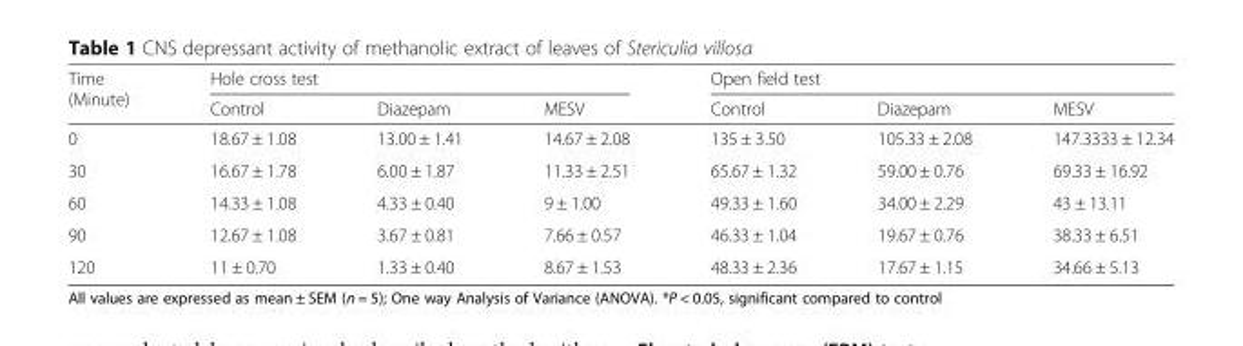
<table><thead><tr><td rowspan="2">Time (Minute)</td><td colspan="3">Hole cross test</td><td colspan="3">Open field test</td></tr><tr><td>Control</td><td>Diazepam</td><td>MESV</td><td>Control</td><td>Diazepam</td><td>MESV</td></tr></thead><tbody><tr><td>0</td><td>18.67 ± 1.08</td><td>13.00 ± 1.41</td><td>14.67 ± 2.08</td><td>135 ± 3.50</td><td>105.33 ± 2.08</td><td>147.3333 ± 12.34</td></tr><tr><td>30</td><td>16.67 ± 1.78</td><td>6.00 ± 1.87</td><td>11.33 ± 2.51</td><td>65.67 ± 1.32</td><td>59.00 ± 0.76</td><td>69.33 ± 16.92</td></tr><tr><td>60</td><td>14.33 ± 1.08</td><td>4.33 ± 0.40</td><td>9 ± 1.00</td><td>49.33 ± 1.60</td><td>34.00 ± 2.29</td><td>43 ± 13.11</td></tr><tr><td>90</td><td>12.67 ± 1.08</td><td>3.67 ± 0.81</td><td>7.66 ± 0.57</td><td>46.33 ± 1.04</td><td>19.67 ± 0.76</td><td>38.33 ± 6.51</td></tr><tr><td>120</td><td>11 ± 0.70</td><td>1.33 ± 0.40</td><td>8.67 ± 1.53</td><td>48.33 ± 2.36</td><td>17.67 ± 1.15</td><td>34.66 ± 5.13</td></tr></tbody></table>